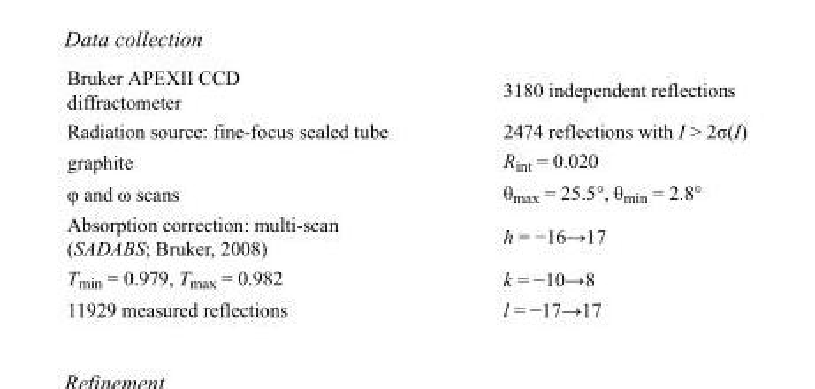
<table><tbody><tr><td>Bruker APEXII CCD diffractometer</td><td>3180 independent reflections</td></tr><tr><td>Radiation source: fine-focus sealed tube</td><td>2474 reflections with I &gt; 2σ(I)</td></tr><tr><td>graphite</td><td>R<sub>int</sub> = 0.020</td></tr><tr><td>φ and ω scans</td><td>θ<sub>max</sub> = 25.5°, θ<sub>min</sub> = 2.8°</td></tr><tr><td>Absorption correction: multi-scan (SADABS; Bruker, 2008)</td><td>h = −16→17</td></tr><tr><td>T<sub>min</sub> = 0.979, T<sub>max</sub> = 0.982</td><td>k = −10→8</td></tr><tr><td>11929 measured reflections</td><td>l = −17→17</td></tr></tbody></table>